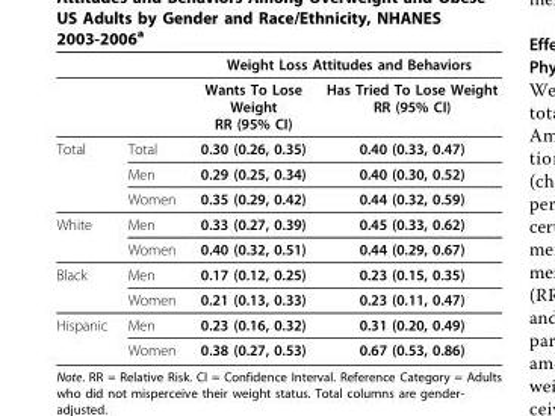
<table><thead><tr><td rowspan="2"></td><td rowspan="2"></td><td colspan="2">Weight Loss Attitudes and Behaviors</td></tr><tr><td>Wants To Lose Weight RR (95% CI)</td><td>Has Tried To Lose Weight RR (95% CI)</td></tr></thead><tbody><tr><td rowspan="3">Total</td><td>Total</td><td>0.30 (0.26, 0.35)</td><td>0.40 (0.33, 0.47)</td></tr><tr><td>Men</td><td>0.29 (0.25, 0.34)</td><td>0.40 (0.30, 0.52)</td></tr><tr><td>Women</td><td>0.35 (0.29, 0.42)</td><td>0.44 (0.32, 0.59)</td></tr><tr><td rowspan="2">White</td><td>Men</td><td>0.33 (0.27, 0.39)</td><td>0.45 (0.33, 0.62)</td></tr><tr><td>Women</td><td>0.40 (0.32, 0.51)</td><td>0.44 (0.29, 0.67)</td></tr><tr><td rowspan="2">Black</td><td>Men</td><td>0.17 (0.12, 0.25)</td><td>0.23 (0.15, 0.35)</td></tr><tr><td>Women</td><td>0.21 (0.13, 0.33)</td><td>0.23 (0.11, 0.47)</td></tr><tr><td rowspan="2">Hispanic</td><td>Men</td><td>0.23 (0.16, 0.32)</td><td>0.31 (0.20, 0.49)</td></tr><tr><td>Women</td><td>0.38 (0.27, 0.53)</td><td>0.67 (0.53, 0.86)</td></tr></tbody></table>